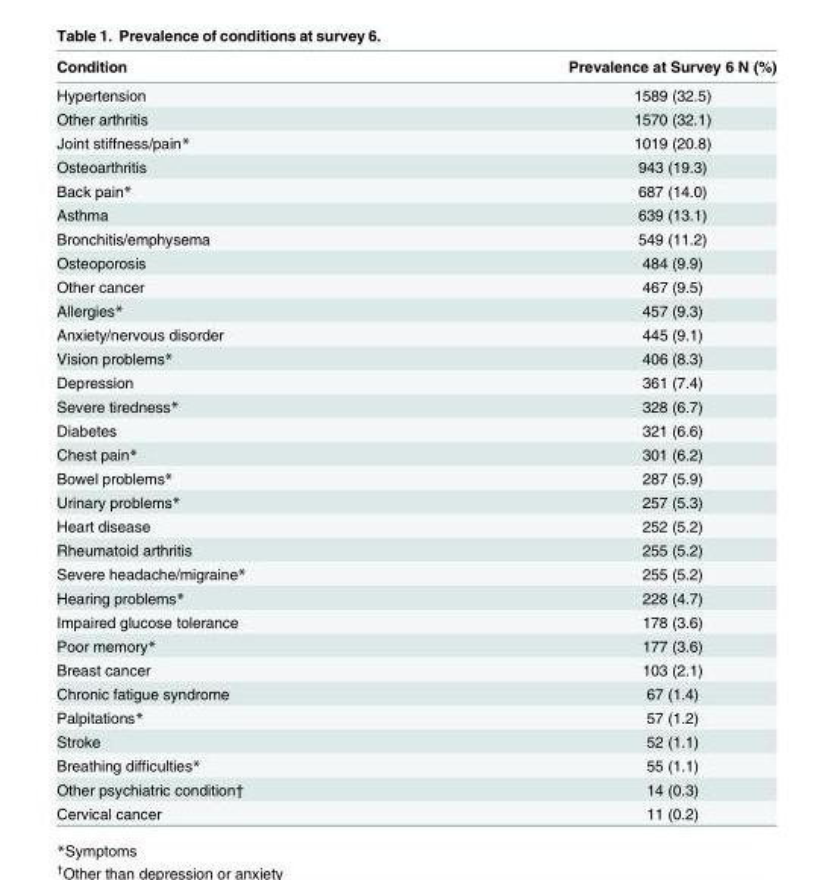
<table><thead><tr><td>Condition</td><td>Prevalence at Survey 6 N (%)</td></tr></thead><tbody><tr><td>Hypertension</td><td>1589 (32.5)</td></tr><tr><td>Other arthritis</td><td>1570 (32.1)</td></tr><tr><td>Joint stiffness/pain*</td><td>1019 (20.8)</td></tr><tr><td>Osteoarthritis</td><td>943 (19.3)</td></tr><tr><td>Back pain*</td><td>687 (14.0)</td></tr><tr><td>Asthma</td><td>639 (13.1)</td></tr><tr><td>Bronchitis/emphysema</td><td>549 (11.2)</td></tr><tr><td>Osteoporosis</td><td>484 (9.9)</td></tr><tr><td>Other cancer</td><td>467 (9.5)</td></tr><tr><td>Allergies*</td><td>457 (9.3)</td></tr><tr><td>Anxiety/nervous disorder</td><td>445 (9.1)</td></tr><tr><td>Vision problems*</td><td>406 (8.3)</td></tr><tr><td>Depression</td><td>361 (7.4)</td></tr><tr><td>Severe tiredness*</td><td>328 (6.7)</td></tr><tr><td>Diabetes</td><td>321 (6.6)</td></tr><tr><td>Chest pain*</td><td>301 (6.2)</td></tr><tr><td>Bowel problems*</td><td>287 (5.9)</td></tr><tr><td>Urinary problems*</td><td>257 (5.3)</td></tr><tr><td>Heart disease</td><td>252 (5.2)</td></tr><tr><td>Rheumatoid arthritis</td><td>255 (5.2)</td></tr><tr><td>Severe headache/migraine*</td><td>255 (5.2)</td></tr><tr><td>Hearing problems*</td><td>228 (4.7)</td></tr><tr><td>Impaired glucose tolerance</td><td>178 (3.6)</td></tr><tr><td>Poor memory*</td><td>177 (3.6)</td></tr><tr><td>Breast cancer</td><td>103 (2.1)</td></tr><tr><td>Chronic fatigue syndrome</td><td>67 (1.4)</td></tr><tr><td>Palpitations*</td><td>57 (1.2)</td></tr><tr><td>Stroke</td><td>52 (1.1)</td></tr><tr><td>Breathing difficulties*</td><td>55 (1.1)</td></tr><tr><td>Other psychiatric condition†</td><td>14 (0.3)</td></tr><tr><td>Cervical cancer</td><td>11 (0.2)</td></tr></tbody></table>